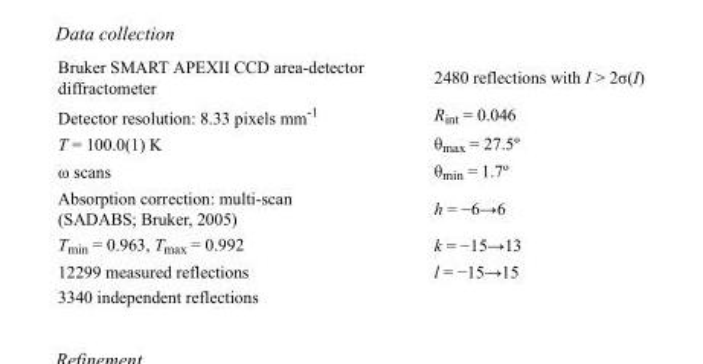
<table><tbody><tr><td>Bruker SMART APEXII CCD area-detector diffractometer</td><td>2480 reflections with I &gt; 2σ(I)</td></tr><tr><td>Detector resolution: 8.33 pixels mm<sup>-1</sup></td><td>R<sub>int</sub> = 0.046</td></tr><tr><td>T = 100.0(1) K</td><td>θ<sub>max</sub> = 27.5º</td></tr><tr><td>ω scans</td><td>θ<sub>min</sub> = 1.7º</td></tr><tr><td>Absorption correction: multi-scan (SADABS; Bruker, 2005)</td><td>h = −6→6</td></tr><tr><td>T<sub>min</sub> = 0.963, T<sub>max</sub> = 0.992</td><td>k = −15→13</td></tr><tr><td>12299 measured reflections</td><td>l = −15→15</td></tr><tr><td>3340 independent reflections</td><td></td></tr></tbody></table>